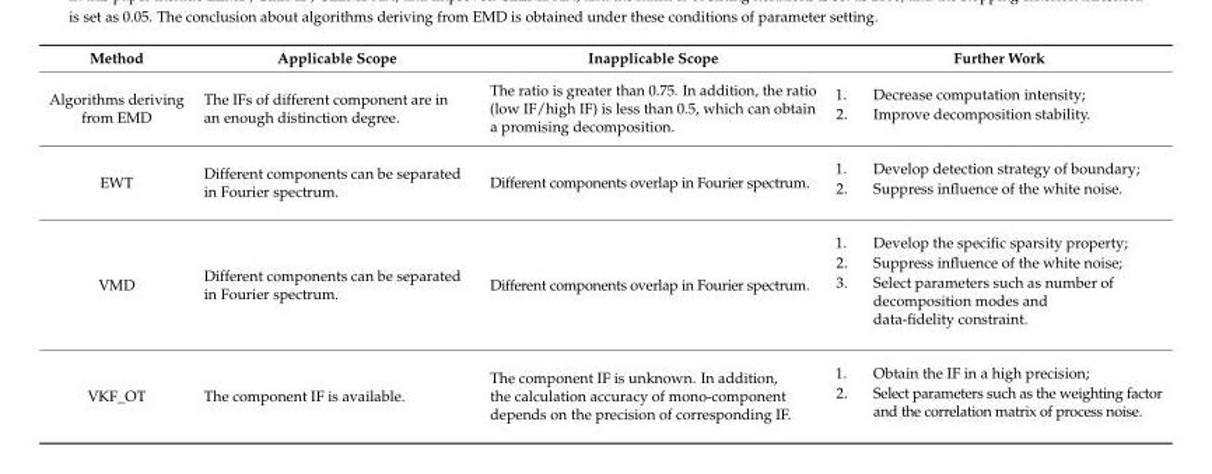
<table><thead><tr><td>Method</td><td>Applicable Scope</td><td>Inapplicable Scope</td><td>Further Work</td></tr></thead><tbody><tr><td>Algorithms deriving from EMD</td><td>The IFs of different component are in an enough distinction degree.</td><td>The ratio is greater than 0.75. In addition, the ratio (low IF/high IF) is less than 0.5, which can obtain a promising decomposition.</td><td>1. Decrease computation intensity; 2. Improve decomposition stability.</td></tr><tr><td>EWT</td><td>Different components can be separated in Fourier spectrum.</td><td>Different components overlap in Fourier spectrum.</td><td>1. Develop detection strategy of boundary; 2. Suppress influence of the white noise.</td></tr><tr><td>VMD</td><td>Different components can be separated in Fourier spectrum.</td><td>Different components overlap in Fourier spectrum.</td><td>1. Develop the specific sparsity property; 2. Suppress influence of the white noise; 3. Select parameters such as number of decomposition modes and data-fidelity constraint.</td></tr><tr><td>VKF_OT</td><td>The component IF is available.</td><td>The component IF is unknown. In addition, the calculation accuracy of mono-component depends on the precision of corresponding IF.</td><td>1. Obtain the IF in a high precision; 2. Select parameters such as the weighting factor and the correlation matrix of process noise.</td></tr></tbody></table>